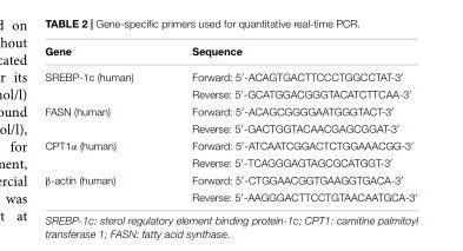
<table><thead><tr><td>Gene</td><td>Sequence</td></tr></thead><tbody><tr><td rowspan="2">SREBP-1c (human)</td><td>Forward: 5′-ACAGTGACTTCCCTGGCCTAT-3′</td></tr><tr><td>Reverse: 5′-GCATGGACGGGTACATCTTCAA-3′</td></tr><tr><td rowspan="2">FASN (human)</td><td>Forward: 5′-ACAGCGGGGAATGGGTACT-3′</td></tr><tr><td>Reverse: 5′-GACTGGTACAACGAGCGGAT-3′</td></tr><tr><td rowspan="2">CPT1α (human)</td><td>Forward: 5′-ATCAATCGGACTCTGGAAACGG-3′</td></tr><tr><td>Reverse: 5′-TCAGGGAGTAGCGCATGGT-3′</td></tr><tr><td rowspan="2">β-actin (human)</td><td>Forward: 5′-CTGGAACGGTGAAGGTGACA-3′</td></tr><tr><td>Reverse: 5′-AAGGGACTTCCTGTAACAATGCA-3′</td></tr></tbody></table>